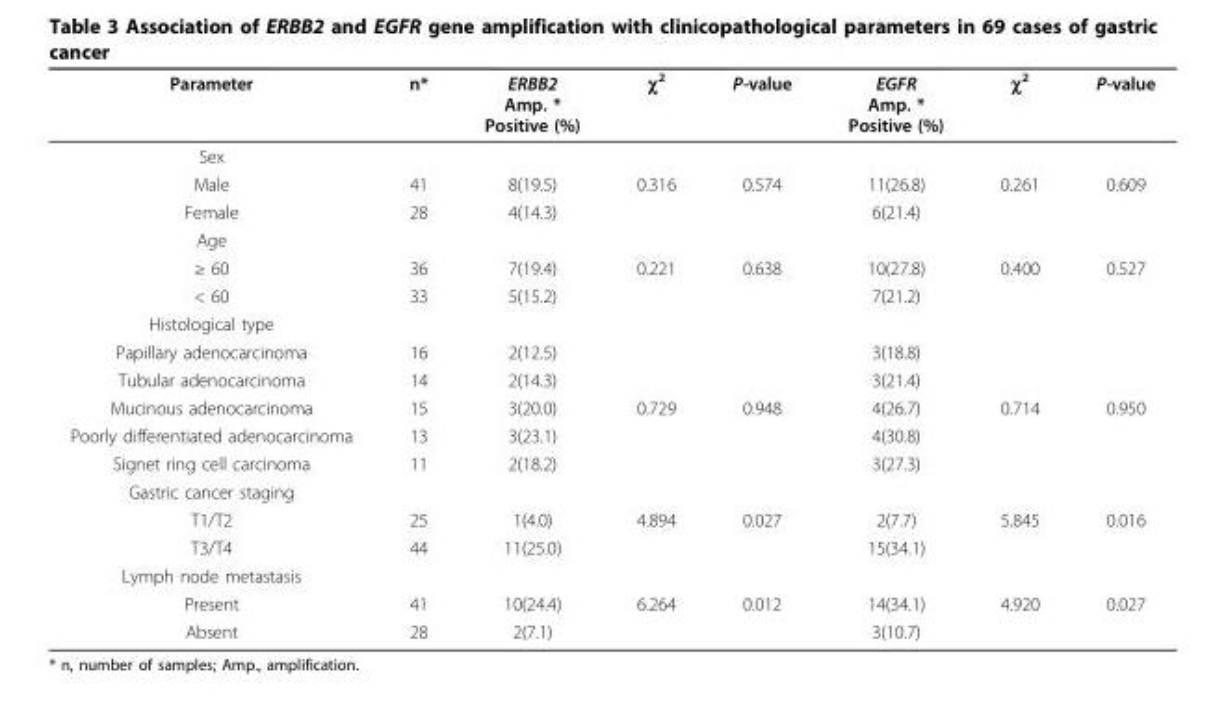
<table><thead><tr><td>Parameter</td><td>n*</td><td>ERBB2 Amp. * Positive (%)</td><td>χ<sup>2</sup></td><td>P-value</td><td>EGFR Amp. * Positive (%)</td><td>χ<sup>2</sup></td><td>P-value</td></tr></thead><tbody><tr><td colspan="8">Sex</td></tr><tr><td>Male</td><td>41</td><td>8(19.5)</td><td>0.316</td><td>0.574</td><td>11(26.8)</td><td>0.261</td><td>0.609</td></tr><tr><td>Female</td><td>28</td><td>4(14.3)</td><td></td><td></td><td>6(21.4)</td><td></td><td></td></tr><tr><td colspan="8">Age</td></tr><tr><td>≥ 60</td><td>36</td><td>7(19.4)</td><td>0.221</td><td>0.638</td><td>10(27.8)</td><td>0.400</td><td>0.527</td></tr><tr><td>&lt; 60</td><td>33</td><td>5(15.2)</td><td></td><td></td><td>7(21.2)</td><td></td><td></td></tr><tr><td colspan="8">Histological type</td></tr><tr><td>Papillary adenocarcinoma</td><td>16</td><td>2(12.5)</td><td></td><td></td><td>3(18.8)</td><td></td><td></td></tr><tr><td>Tubular adenocarcinoma</td><td>14</td><td>2(14.3)</td><td></td><td></td><td>3(21.4)</td><td></td><td></td></tr><tr><td>Mucinous adenocarcinoma</td><td>15</td><td>3(20.0)</td><td>0.729</td><td>0.948</td><td>4(26.7)</td><td>0.714</td><td>0.950</td></tr><tr><td>Poorly differentiated adenocarcinoma</td><td>13</td><td>3(23.1)</td><td></td><td></td><td>4(30.8)</td><td></td><td></td></tr><tr><td>Signet ring cell carcinoma</td><td>11</td><td>2(18.2)</td><td></td><td></td><td>3(27.3)</td><td></td><td></td></tr><tr><td colspan="8">Gastric cancer staging</td></tr><tr><td>T1/T2</td><td>25</td><td>1(4.0)</td><td>4.894</td><td>0.027</td><td>2(7.7)</td><td>5.845</td><td>0.016</td></tr><tr><td>T3/T4</td><td>44</td><td>11(25.0)</td><td></td><td></td><td>15(34.1)</td><td></td><td></td></tr><tr><td colspan="8">Lymph node metastasis</td></tr><tr><td>Present</td><td>41</td><td>10(24.4)</td><td>6.264</td><td>0.012</td><td>14(34.1)</td><td>4.920</td><td>0.027</td></tr><tr><td>Absent</td><td>28</td><td>2(7.1)</td><td></td><td></td><td>3(10.7)</td><td></td><td></td></tr></tbody></table>